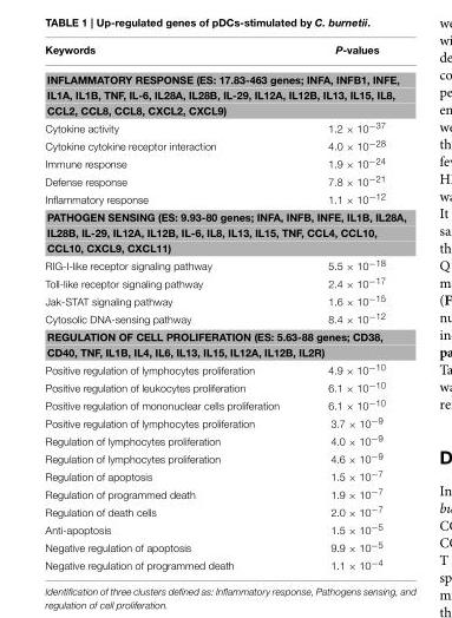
<table><thead><tr><td>Keywords</td><td>P-values</td></tr></thead><tbody><tr><td colspan="2">INFLAMMATORY RESPONSE (ES: 17.83-463 genes; INFA, INFB1, INFE, IL1A, IL1B, TNF, IL-6, IL28A, IL28B, IL-29, IL12A, IL12B, IL13, IL15, IL8, CCL2, CCL8, CCL8, CXCL2, CXCL9)</td></tr><tr><td>Cytokine activity</td><td>1.2 × 10<sup>−37</sup></td></tr><tr><td>Cytokine cytokine receptor interaction</td><td>4.0 × 10<sup>−28</sup></td></tr><tr><td>Immune response</td><td>1.9 × 10<sup>−24</sup></td></tr><tr><td>Defense response</td><td>7.8 × 10<sup>−21</sup></td></tr><tr><td>Inflammatory response</td><td>1.1 × 10<sup>−12</sup></td></tr><tr><td colspan="2">PATHOGEN SENSING (ES: 9.93-80 genes; INFA, INFB, INFE, IL1B, IL28A, IL28B, IL-29, IL12A, IL12B, IL-6, IL8, IL13, IL15, TNF, CCL4, CCL10, CCL10, CXCL9, CXCL11)</td></tr><tr><td>RIG-I-like receptor signaling pathway</td><td>5.5 × 10<sup>−18</sup></td></tr><tr><td>Toll-like receptor signaling pathway</td><td>2.4 × 10<sup>−17</sup></td></tr><tr><td>Jak-STAT signaling pathway</td><td>1.6 × 10<sup>−15</sup></td></tr><tr><td>Cytosolic DNA-sensing pathway</td><td>8.4 × 10<sup>−12</sup></td></tr><tr><td colspan="2">REGULATION OF CELL PROLIFERATION (ES: 5.63-88 genes; CD38, CD40, TNF, IL1B, IL4, IL6, IL13, IL15, IL12A, IL12B, IL2R)</td></tr><tr><td>Positive regulation of lymphocytes proliferation</td><td>4.9 × 10<sup>−10</sup></td></tr><tr><td>Positive regulation of leukocytes proliferation</td><td>6.1 × 10<sup>−10</sup></td></tr><tr><td>Positive regulation of mononuclear cells proliferation</td><td>6.1 × 10<sup>−10</sup></td></tr><tr><td>Positive regulation of lymphocytes proliferation</td><td>3.7 × 10<sup>−9</sup></td></tr><tr><td>Regulation of lymphocytes proliferation</td><td>4.0 × 10<sup>−9</sup></td></tr><tr><td>Regulation of lymphocytes proliferation</td><td>4.6 × 10<sup>−9</sup></td></tr><tr><td>Regulation of apoptosis</td><td>1.5 × 10<sup>−7</sup></td></tr><tr><td>Regulation of programmed death</td><td>1.9 × 10<sup>−7</sup></td></tr><tr><td>Regulation of death cells</td><td>2.0 × 10<sup>−7</sup></td></tr><tr><td>Anti-apoptosis</td><td>1.5 × 10<sup>−5</sup></td></tr><tr><td>Negative regulation of apoptosis</td><td>9.9 × 10<sup>−5</sup></td></tr><tr><td>Negative regulation of programmed death</td><td>1.1 × 10<sup>−4</sup></td></tr></tbody></table>